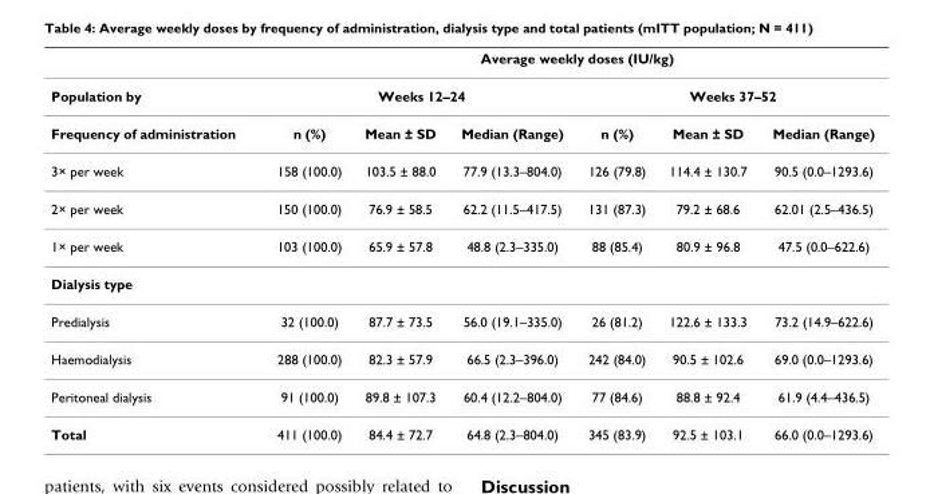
<table><thead><tr><td rowspan="3">Population by Frequency of administration</td><td colspan="6">Average weekly doses (IU/kg)</td></tr><tr><td colspan="3">Weeks 12–24</td><td colspan="3">Weeks 37–52</td></tr><tr><td>n (%)</td><td>Mean ± SD</td><td>Median (Range)</td><td>n (%)</td><td>Mean ± SD</td><td>Median (Range)</td></tr></thead><tbody><tr><td>3× per week</td><td>158 (100.0)</td><td>103.5 ± 88.0</td><td>77.9 (13.3–804.0)</td><td>126 (79.8)</td><td>114.4 ± 130.7</td><td>90.5 (0.0–1293.6)</td></tr><tr><td>2× per week</td><td>150 (100.0)</td><td>76.9 ± 58.5</td><td>62.2 (11.5–417.5)</td><td>131 (87.3)</td><td>79.2 ± 68.6</td><td>62.01 (2.5–436.5)</td></tr><tr><td>1× per week</td><td>103 (100.0)</td><td>65.9 ± 57.8</td><td>48.8 (2.3–335.0)</td><td>88 (85.4)</td><td>80.9 ± 96.8</td><td>47.5 (0.0–622.6)</td></tr><tr><td colspan="7">Dialysis type</td></tr><tr><td>Predialysis</td><td>32 (100.0)</td><td>87.7 ± 73.5</td><td>56.0 (19.1–335.0)</td><td>26 (81.2)</td><td>122.6 ± 133.3</td><td>73.2 (14.9–622.6)</td></tr><tr><td>Haemodialysis</td><td>288 (100.0)</td><td>82.3 ± 57.9</td><td>66.5 (2.3–396.0)</td><td>242 (84.0)</td><td>90.5 ± 102.6</td><td>69.0 (0.0–1293.6)</td></tr><tr><td>Peritoneal dialysis</td><td>91 (100.0)</td><td>89.8 ± 107.3</td><td>60.4 (12.2–804.0)</td><td>77 (84.6)</td><td>88.8 ± 92.4</td><td>61.9 (4.4–436.5)</td></tr><tr><td>Total</td><td>411 (100.0)</td><td>84.4 ± 72.7</td><td>64.8 (2.3–804.0)</td><td>345 (83.9)</td><td>92.5 ± 103.1</td><td>66.0 (0.0–1293.6)</td></tr></tbody></table>